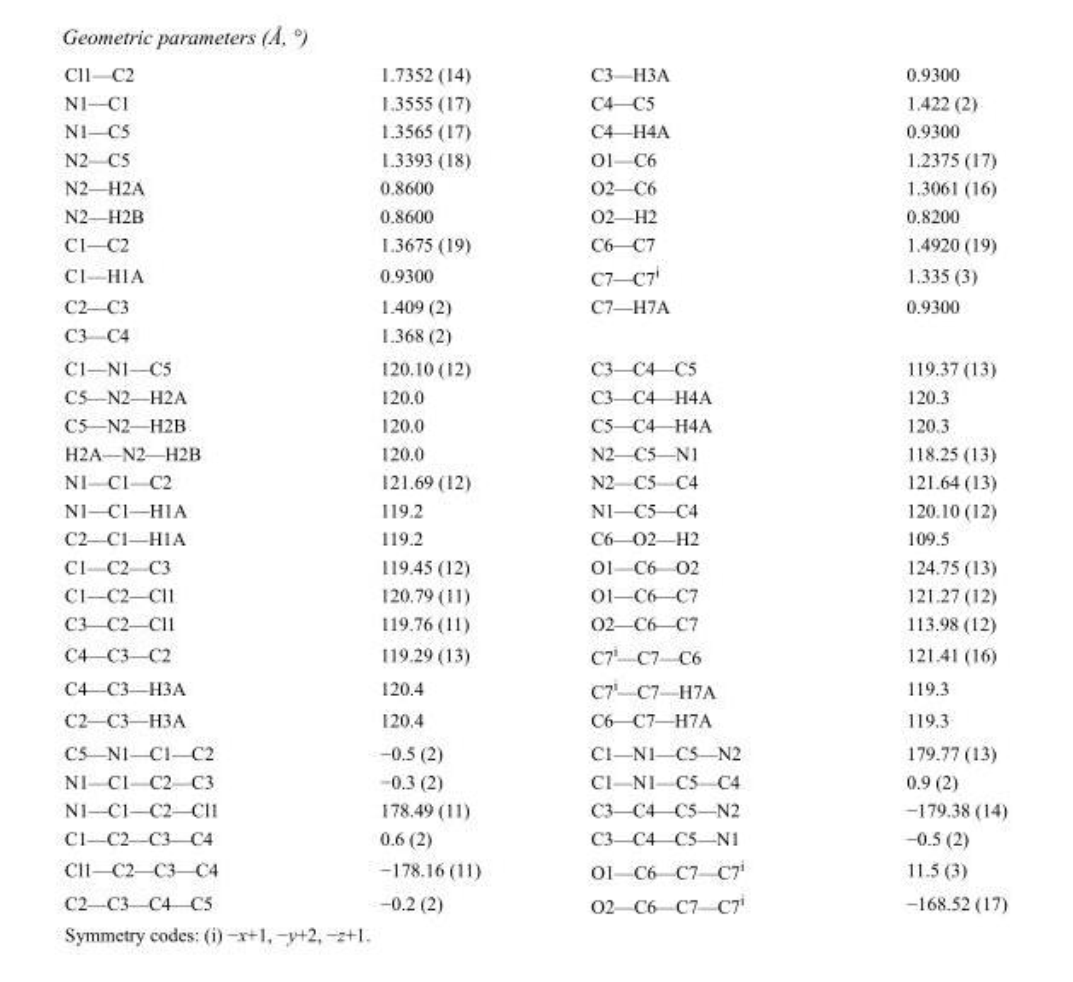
<table><tbody><tr><td>Cl1—C2</td><td>1.7352 (14)</td><td>C3—H3A</td><td>0.9300</td></tr><tr><td>N1—C1</td><td>1.3555 (17)</td><td>C4—C5</td><td>1.422 (2)</td></tr><tr><td>N1—C5</td><td>1.3565 (17)</td><td>C4—H4A</td><td>0.9300</td></tr><tr><td>N2—C5</td><td>1.3393 (18)</td><td>O1—C6</td><td>1.2375 (17)</td></tr><tr><td>N2—H2A</td><td>0.8600</td><td>O2—C6</td><td>1.3061 (16)</td></tr><tr><td>N2—H2B</td><td>0.8600</td><td>O2—H2</td><td>0.8200</td></tr><tr><td>C1—C2</td><td>1.3675 (19)</td><td>C6—C7</td><td>1.4920 (19)</td></tr><tr><td>C1—H1A</td><td>0.9300</td><td>C7—C7<sup>i</sup></td><td>1.335 (3)</td></tr><tr><td>C2—C3</td><td>1.409 (2)</td><td>C7—H7A</td><td>0.9300</td></tr><tr><td>C3—C4</td><td>1.368 (2)</td><td></td><td></td></tr><tr><td>C1—N1—C5</td><td>120.10 (12)</td><td>C3—C4—C5</td><td>119.37 (13)</td></tr><tr><td>C5—N2—H2A</td><td>120.0</td><td>C3—C4—H4A</td><td>120.3</td></tr><tr><td>C5—N2—H2B</td><td>120.0</td><td>C5—C4—H4A</td><td>120.3</td></tr><tr><td>H2A—N2—H2B</td><td>120.0</td><td>N2—C5—N1</td><td>118.25 (13)</td></tr><tr><td>N1—C1—C2</td><td>121.69 (12)</td><td>N2—C5—C4</td><td>121.64 (13)</td></tr><tr><td>N1—C1—H1A</td><td>119.2</td><td>N1—C5—C4</td><td>120.10 (12)</td></tr><tr><td>C2—C1—H1A</td><td>119.2</td><td>C6—O2—H2</td><td>109.5</td></tr><tr><td>C1—C2—C3</td><td>119.45 (12)</td><td>O1—C6—O2</td><td>124.75 (13)</td></tr><tr><td>C1—C2—Cl1</td><td>120.79 (11)</td><td>O1—C6—C7</td><td>121.27 (12)</td></tr><tr><td>C3—C2—Cl1</td><td>119.76 (11)</td><td>O2—C6—C7</td><td>113.98 (12)</td></tr><tr><td>C4—C3—C2</td><td>119.29 (13)</td><td>C7<sup>i</sup>—C7—C6</td><td>121.41 (16)</td></tr><tr><td>C4—C3—H3A</td><td>120.4</td><td>C7<sup>i</sup>—C7—H7A</td><td>119.3</td></tr><tr><td>C2—C3—H3A</td><td>120.4</td><td>C6—C7—H7A</td><td>119.3</td></tr><tr><td>C5—N1—C1—C2</td><td>−0.5 (2)</td><td>C1—N1—C5—N2</td><td>179.77 (13)</td></tr><tr><td>N1—C1—C2—C3</td><td>−0.3 (2)</td><td>C1—N1—C5—C4</td><td>0.9 (2)</td></tr><tr><td>N1—C1—C2—Cl1</td><td>178.49 (11)</td><td>C3—C4—C5—N2</td><td>−179.38 (14)</td></tr><tr><td>C1—C2—C3—C4</td><td>0.6 (2)</td><td>C3—C4—C5—N1</td><td>−0.5 (2)</td></tr><tr><td>Cl1—C2—C3—C4</td><td>−178.16 (11)</td><td>O1—C6—C7—C7<sup>i</sup></td><td>11.5 (3)</td></tr><tr><td>C2—C3—C4—C5</td><td>−0.2 (2)</td><td>O2—C6—C7—C7<sup>i</sup></td><td>−168.52 (17)</td></tr></tbody></table>